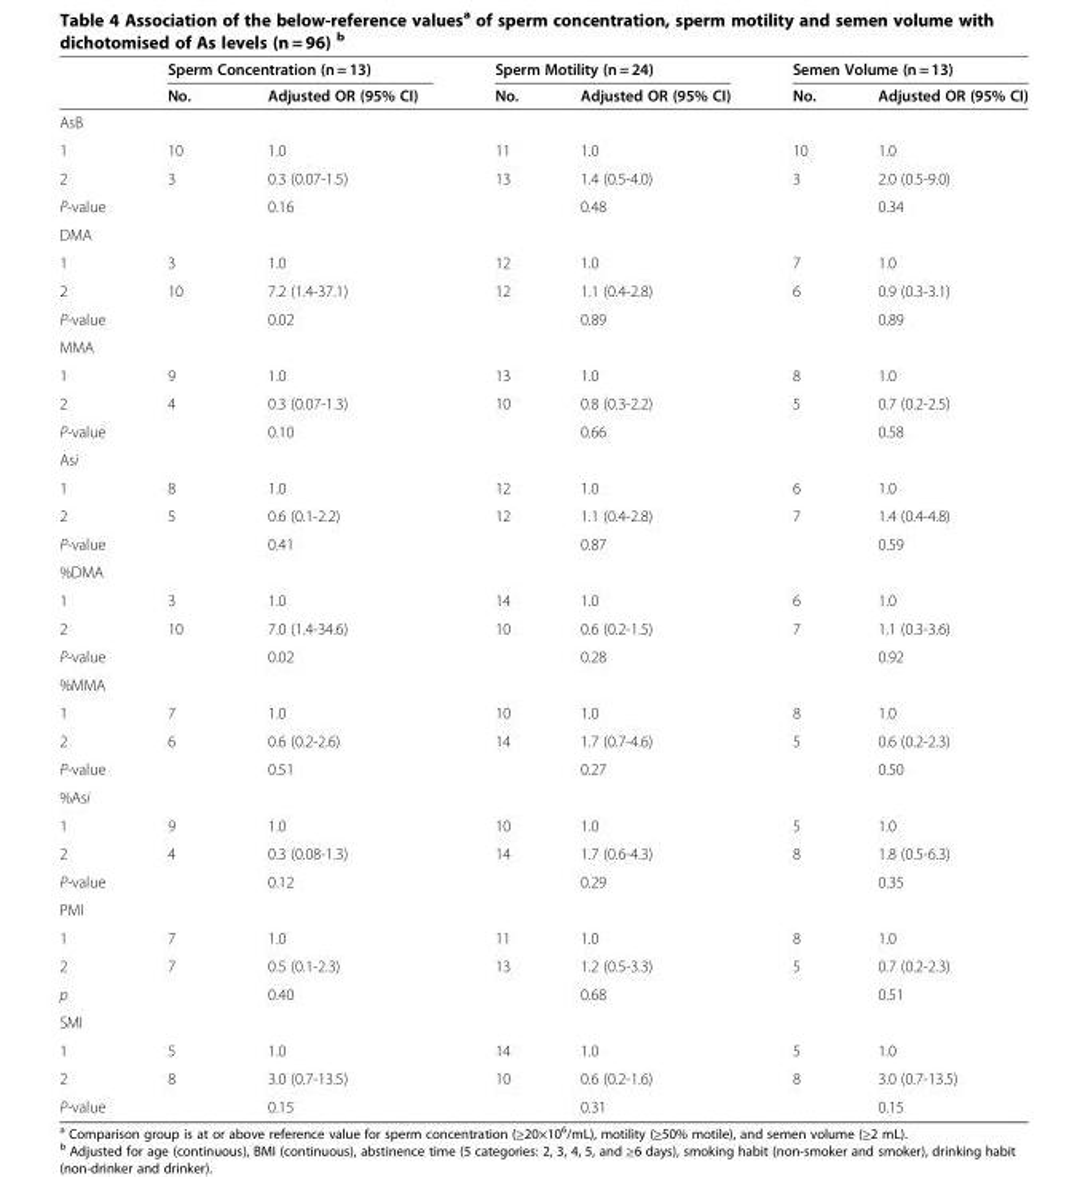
<table><thead><tr><td rowspan="2"></td><td colspan="2">Sperm Concentration (n = 13)</td><td colspan="2">Sperm Motility (n = 24)</td><td colspan="2">Semen Volume (n = 13)</td></tr><tr><td>No.</td><td>Adjusted OR (95% CI)</td><td>No.</td><td>Adjusted OR (95% CI)</td><td>No.</td><td>Adjusted OR (95% CI)</td></tr></thead><tbody><tr><td colspan="7">AsB</td></tr><tr><td>1</td><td>10</td><td>1.0</td><td>11</td><td>1.0</td><td>10</td><td>1.0</td></tr><tr><td>2</td><td>3</td><td>0.3 (0.07-1.5)</td><td>13</td><td>1.4 (0.5-4.0)</td><td>3</td><td>2.0 (0.5-9.0)</td></tr><tr><td>P-value</td><td></td><td>0.16</td><td></td><td>0.48</td><td></td><td>0.34</td></tr><tr><td colspan="7">DMA</td></tr><tr><td>1</td><td>3</td><td>1.0</td><td>12</td><td>1.0</td><td>7</td><td>1.0</td></tr><tr><td>2</td><td>10</td><td>7.2 (1.4-37.1)</td><td>12</td><td>1.1 (0.4-2.8)</td><td>6</td><td>0.9 (0.3-3.1)</td></tr><tr><td>P-value</td><td></td><td>0.02</td><td></td><td>0.89</td><td></td><td>0.89</td></tr><tr><td colspan="7">MMA</td></tr><tr><td>1</td><td>9</td><td>1.0</td><td>13</td><td>1.0</td><td>8</td><td>1.0</td></tr><tr><td>2</td><td>4</td><td>0.3 (0.07-1.3)</td><td>10</td><td>0.8 (0.3-2.2)</td><td>5</td><td>0.7 (0.2-2.5)</td></tr><tr><td>P-value</td><td></td><td>0.10</td><td></td><td>0.66</td><td></td><td>0.58</td></tr><tr><td colspan="7">Asi</td></tr><tr><td>1</td><td>8</td><td>1.0</td><td>12</td><td>1.0</td><td>6</td><td>1.0</td></tr><tr><td>2</td><td>5</td><td>0.6 (0.1-2.2)</td><td>12</td><td>1.1 (0.4-2.8)</td><td>7</td><td>1.4 (0.4-4.8)</td></tr><tr><td>P-value</td><td></td><td>0.41</td><td></td><td>0.87</td><td></td><td>0.59</td></tr><tr><td colspan="7">%DMA</td></tr><tr><td>1</td><td>3</td><td>1.0</td><td>14</td><td>1.0</td><td>6</td><td>1.0</td></tr><tr><td>2</td><td>10</td><td>7.0 (1.4-34.6)</td><td>10</td><td>0.6 (0.2-1.5)</td><td>7</td><td>1.1 (0.3-3.6)</td></tr><tr><td>P-value</td><td></td><td>0.02</td><td></td><td>0.28</td><td></td><td>0.92</td></tr><tr><td colspan="7">%MMA</td></tr><tr><td>1</td><td>7</td><td>1.0</td><td>10</td><td>1.0</td><td>8</td><td>1.0</td></tr><tr><td>2</td><td>6</td><td>0.6 (0.2-2.6)</td><td>14</td><td>1.7 (0.7-4.6)</td><td>5</td><td>0.6 (0.2-2.3)</td></tr><tr><td>P-value</td><td></td><td>0.51</td><td></td><td>0.27</td><td></td><td>0.50</td></tr><tr><td colspan="7">%Asi</td></tr><tr><td>1</td><td>9</td><td>1.0</td><td>10</td><td>1.0</td><td>5</td><td>1.0</td></tr><tr><td>2</td><td>4</td><td>0.3 (0.08-1.3)</td><td>14</td><td>1.7 (0.6-4.3)</td><td>8</td><td>1.8 (0.5-6.3)</td></tr><tr><td>P-value</td><td></td><td>0.12</td><td></td><td>0.29</td><td></td><td>0.35</td></tr><tr><td colspan="7">PMI</td></tr><tr><td>1</td><td>7</td><td>1.0</td><td>11</td><td>1.0</td><td>8</td><td>1.0</td></tr><tr><td>2</td><td>7</td><td>0.5 (0.1-2.3)</td><td>13</td><td>1.2 (0.5-3.3)</td><td>5</td><td>0.7 (0.2-2.3)</td></tr><tr><td>p</td><td></td><td>0.40</td><td></td><td>0.68</td><td></td><td>0.51</td></tr><tr><td colspan="7">SMI</td></tr><tr><td>1</td><td>5</td><td>1.0</td><td>14</td><td>1.0</td><td>5</td><td>1.0</td></tr><tr><td>2</td><td>8</td><td>3.0 (0.7-13.5)</td><td>10</td><td>0.6 (0.2-1.6)</td><td>8</td><td>3.0 (0.7-13.5)</td></tr><tr><td>P-value</td><td></td><td>0.15</td><td></td><td>0.31</td><td></td><td>0.15</td></tr></tbody></table>